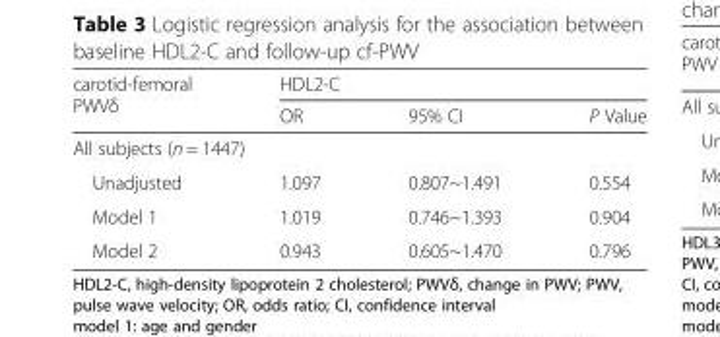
<table><thead><tr><td rowspan="2">carotid-femoral PWVδ</td><td colspan="3">HDL2-C</td></tr><tr><td>OR</td><td>95% CI</td><td>P Value</td></tr></thead><tbody><tr><td colspan="4">All subjects (n = 1447)</td></tr><tr><td>Unadjusted</td><td>1.097</td><td>0.807~1.491</td><td>0.554</td></tr><tr><td>Model 1</td><td>1.019</td><td>0.746~1.393</td><td>0.904</td></tr><tr><td>Model 2</td><td>0.943</td><td>0.605~1.470</td><td>0.796</td></tr></tbody></table>